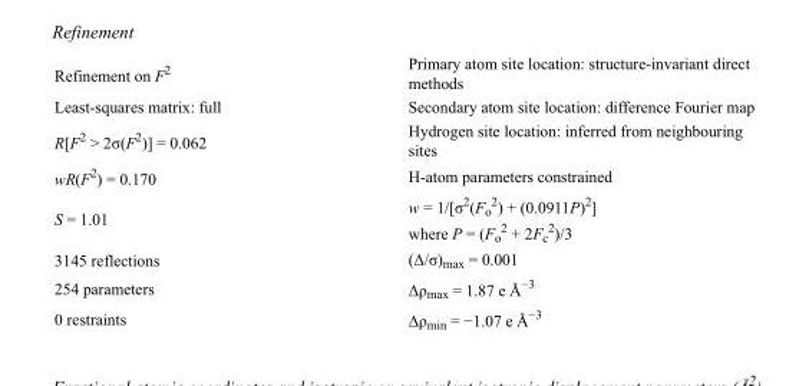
<table><tbody><tr><td>Refinement on F<sup>2</sup></td><td>Primary atom site location: structure-invariant direct methods</td></tr><tr><td>Least-squares matrix: full</td><td>Secondary atom site location: difference Fourier map</td></tr><tr><td>R[F<sup>2</sup> &gt; 2σ(F<sup>2</sup>)] = 0.062</td><td>Hydrogen site location: inferred from neighbouring sites</td></tr><tr><td>wR(F<sup>2</sup>) = 0.170</td><td>H-atom parameters constrained</td></tr><tr><td>S = 1.01</td><td>w = 1/[σ<sup>2</sup>(F<sub>o</sub> <sup>2</sup>) + (0.0911P)<sup>2</sup>] where P = (F<sub>o</sub> <sup>2</sup> + 2F<sub>c</sub> <sup>2</sup>)/3</td></tr><tr><td>3145 reflections</td><td>(Δ/σ)<sub>max</sub> = 0.001</td></tr><tr><td>254 parameters</td><td>Δρ<sub>max</sub> = 1.87 e Å<sup>−3</sup></td></tr><tr><td>0 restraints</td><td>Δρ<sub>min</sub> = −1.07 e Å<sup>−3</sup></td></tr></tbody></table>